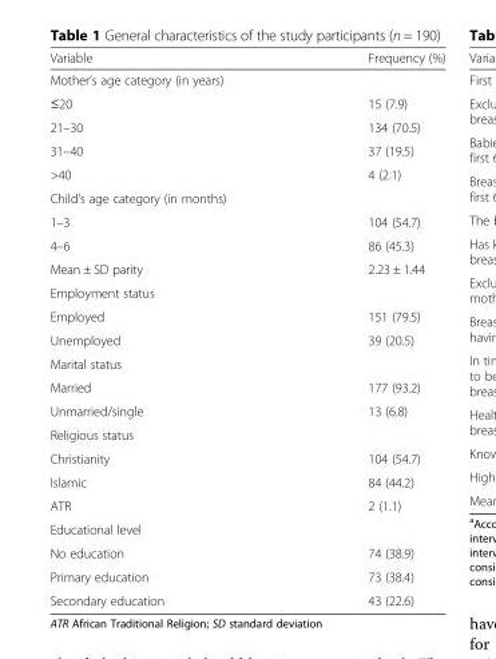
<table><thead><tr><td>Variable</td><td>Frequency (%)</td></tr></thead><tbody><tr><td colspan="2">Mother’s age category (in years)</td></tr><tr><td>≤20</td><td>15 (7.9)</td></tr><tr><td>21–30</td><td>134 (70.5)</td></tr><tr><td>31–40</td><td>37 (19.5)</td></tr><tr><td>&gt;40</td><td>4 (2.1)</td></tr><tr><td colspan="2">Child’s age category (in months)</td></tr><tr><td>1–3</td><td>104 (54.7)</td></tr><tr><td>4–6</td><td>86 (45.3)</td></tr><tr><td>Mean ± SD parity</td><td>2.23 ± 1.44</td></tr><tr><td colspan="2">Employment status</td></tr><tr><td>Employed</td><td>151 (79.5)</td></tr><tr><td>Unemployed</td><td>39 (20.5)</td></tr><tr><td colspan="2">Marital status</td></tr><tr><td>Married</td><td>177 (93.2)</td></tr><tr><td>Unmarried/single</td><td>13 (6.8)</td></tr><tr><td colspan="2">Religious status</td></tr><tr><td>Christianity</td><td>104 (54.7)</td></tr><tr><td>Islamic</td><td>84 (44.2)</td></tr><tr><td>ATR</td><td>2 (1.1)</td></tr><tr><td colspan="2">Educational level</td></tr><tr><td>No education</td><td>74 (38.9)</td></tr><tr><td>Primary education</td><td>73 (38.4)</td></tr><tr><td>Secondary education</td><td>43 (22.6)</td></tr></tbody></table>